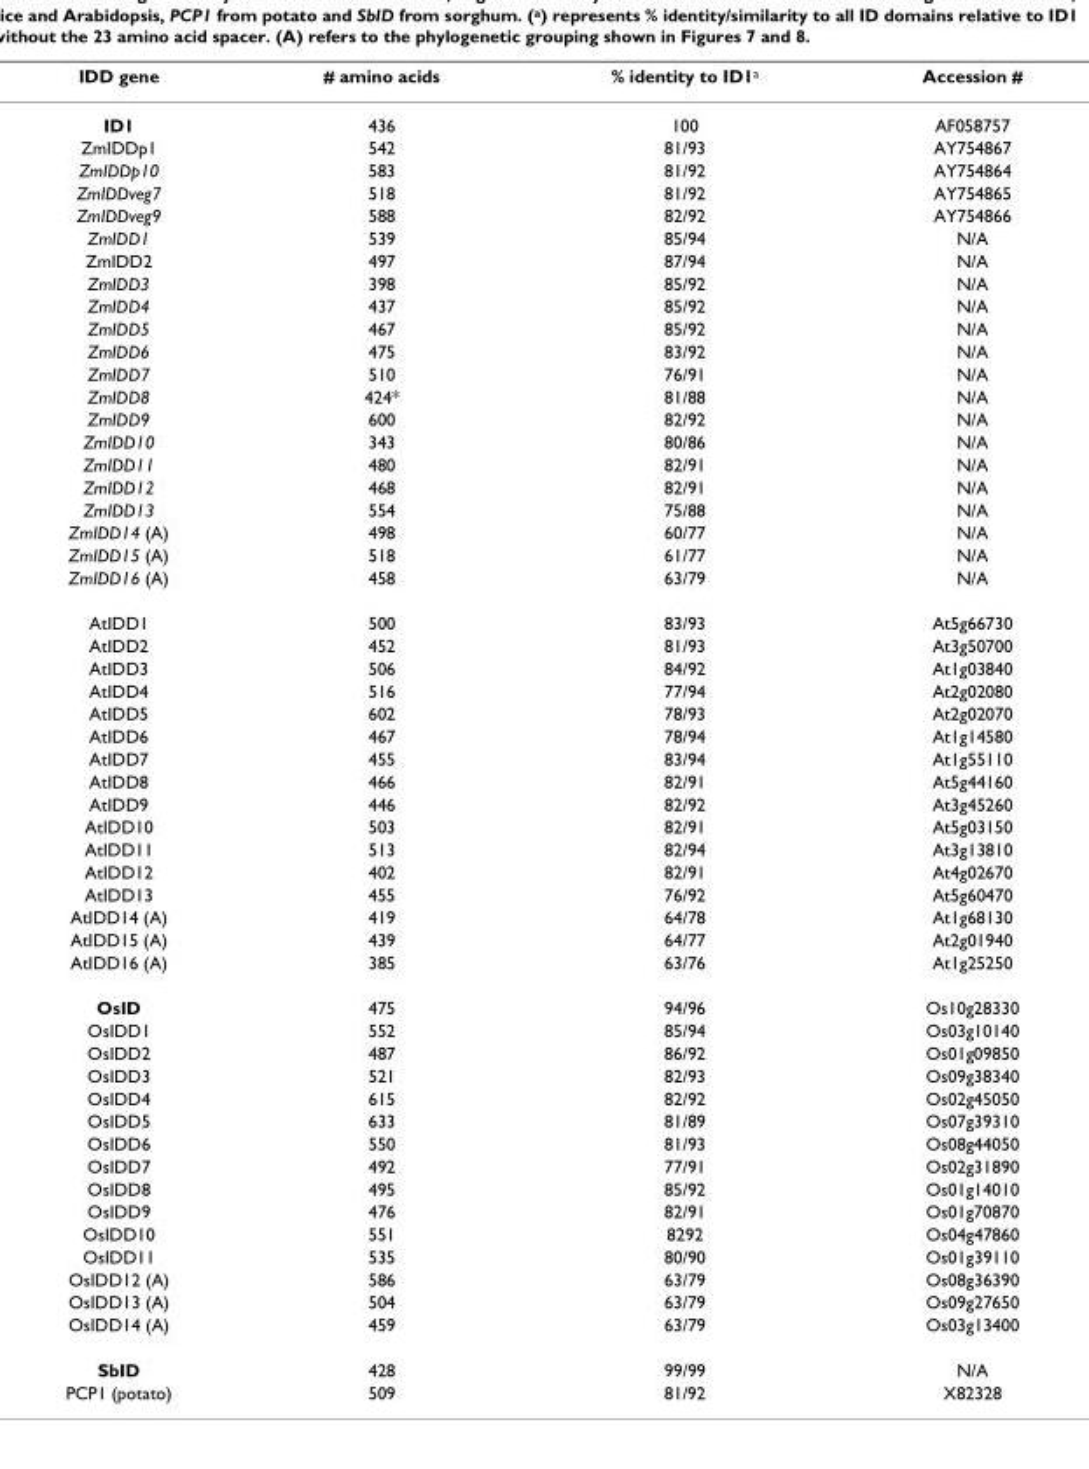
<table><thead><tr><td>IDD gene</td><td># amino acids</td><td>% identity to ID1a</td><td>Accession #</td></tr></thead><tbody><tr><td>ID1</td><td>436</td><td>100</td><td>AF058757</td></tr><tr><td>ZmIDDp1</td><td>542</td><td>81/93</td><td>AY754867</td></tr><tr><td>ZmIDDp10</td><td>583</td><td>81/92</td><td>AY754864</td></tr><tr><td>ZmIDDveg7</td><td>518</td><td>81/92</td><td>AY754865</td></tr><tr><td>ZmIDDveg9</td><td>588</td><td>82/92</td><td>AY754866</td></tr><tr><td>ZmIDD1</td><td>539</td><td>85/94</td><td>N/A</td></tr><tr><td>ZmIDD2</td><td>497</td><td>87/94</td><td>N/A</td></tr><tr><td>ZmIDD3</td><td>398</td><td>85/92</td><td>N/A</td></tr><tr><td>ZmIDD4</td><td>437</td><td>85/92</td><td>N/A</td></tr><tr><td>ZmIDD5</td><td>467</td><td>85/92</td><td>N/A</td></tr><tr><td>ZmIDD6</td><td>475</td><td>83/92</td><td>N/A</td></tr><tr><td>ZmIDD7</td><td>510</td><td>76/91</td><td>N/A</td></tr><tr><td>ZmIDD8</td><td>424*</td><td>81/88</td><td>N/A</td></tr><tr><td>ZmIDD9</td><td>600</td><td>82/92</td><td>N/A</td></tr><tr><td>ZmIDD10</td><td>343</td><td>80/86</td><td>N/A</td></tr><tr><td>ZmIDD11</td><td>480</td><td>82/91</td><td>N/A</td></tr><tr><td>ZmIDD12</td><td>468</td><td>82/91</td><td>N/A</td></tr><tr><td>ZmIDD13</td><td>554</td><td>75/88</td><td>N/A</td></tr><tr><td>ZmIDD14 (A)</td><td>498</td><td>60/77</td><td>N/A</td></tr><tr><td>ZmIDD15 (A)</td><td>518</td><td>61/77</td><td>N/A</td></tr><tr><td>ZmIDD16 (A)</td><td>458</td><td>63/79</td><td>N/A</td></tr><tr><td>AtIDD1</td><td>500</td><td>83/93</td><td>At5g66730</td></tr><tr><td>AtIDD2</td><td>452</td><td>81/93</td><td>At3g50700</td></tr><tr><td>AtIDD3</td><td>506</td><td>84/92</td><td>At1g03840</td></tr><tr><td>AtIDD4</td><td>516</td><td>77/94</td><td>At2g02080</td></tr><tr><td>AtIDD5</td><td>602</td><td>78/93</td><td>At2g02070</td></tr><tr><td>AtIDD6</td><td>467</td><td>78/94</td><td>At1g14580</td></tr><tr><td>AtIDD7</td><td>455</td><td>83/94</td><td>At1g55110</td></tr><tr><td>AtIDD8</td><td>466</td><td>82/91</td><td>At5g44160</td></tr><tr><td>AtIDD9</td><td>446</td><td>82/92</td><td>At3g45260</td></tr><tr><td>AtIDD10</td><td>503</td><td>82/91</td><td>At5g03150</td></tr><tr><td>AtIDD11</td><td>513</td><td>82/94</td><td>At3g13810</td></tr><tr><td>AtIDD12</td><td>402</td><td>82/91</td><td>At4g02670</td></tr><tr><td>AtIDD13</td><td>455</td><td>76/92</td><td>At5g60470</td></tr><tr><td>AtIDD14 (A)</td><td>419</td><td>64/78</td><td>At1g68130</td></tr><tr><td>AtIDD15 (A)</td><td>439</td><td>64/77</td><td>At2g01940</td></tr><tr><td>AtIDD16 (A)</td><td>385</td><td>63/76</td><td>At1g25250</td></tr><tr><td>OsID</td><td>475</td><td>94/96</td><td>Os10g28330</td></tr><tr><td>OsIDD1</td><td>552</td><td>85/94</td><td>Os03g10140</td></tr><tr><td>OsIDD2</td><td>487</td><td>86/92</td><td>Os01g09850</td></tr><tr><td>OsIDD3</td><td>521</td><td>82/93</td><td>Os09g38340</td></tr><tr><td>OsIDD4</td><td>615</td><td>82/92</td><td>Os02g45050</td></tr><tr><td>OsIDD5</td><td>633</td><td>81/89</td><td>Os07g39310</td></tr><tr><td>OsIDD6</td><td>550</td><td>81/93</td><td>Os08g44050</td></tr><tr><td>OsIDD7</td><td>492</td><td>77/91</td><td>Os02g31890</td></tr><tr><td>OsIDD8</td><td>495</td><td>85/92</td><td>Os01g14010</td></tr><tr><td>OsIDD9</td><td>476</td><td>82/91</td><td>Os01g70870</td></tr><tr><td>OsIDD10</td><td>551</td><td>8292</td><td>Os04g47860</td></tr><tr><td>OsIDD11</td><td>535</td><td>80/90</td><td>Os01g39110</td></tr><tr><td>OsIDD12 (A)</td><td>586</td><td>63/79</td><td>Os08g36390</td></tr><tr><td>OsIDD13 (A)</td><td>504</td><td>63/79</td><td>Os09g27650</td></tr><tr><td>OsIDD14 (A)</td><td>459</td><td>63/79</td><td>Os03g13400</td></tr><tr><td>SbID</td><td>428</td><td>99/99</td><td>N/A</td></tr><tr><td>PCP1 (potato)</td><td>509</td><td>81/92</td><td>X82328</td></tr></tbody></table>